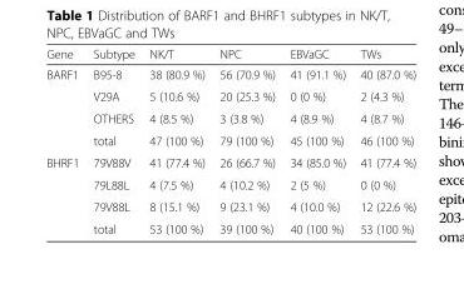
<table><thead><tr><td>Gene</td><td>Subtype</td><td>NK/T</td><td>NPC</td><td>EBVaGC</td><td>TWs</td></tr></thead><tbody><tr><td rowspan="4">BARF1</td><td>B95-8</td><td>38 (80.9 %)</td><td>56 (70.9 %)</td><td>41 (91.1 %)</td><td>40 (87.0 %)</td></tr><tr><td>V29A</td><td>5 (10.6 %)</td><td>20 (25.3 %)</td><td>0 (0 %)</td><td>2 (4.3 %)</td></tr><tr><td>OTHERS</td><td>4 (8.5 %)</td><td>3 (3.8 %)</td><td>4 (8.9 %)</td><td>4 (8.7 %)</td></tr><tr><td>total</td><td>47 (100 %)</td><td>79 (100 %)</td><td>45 (100 %)</td><td>46 (100 %)</td></tr><tr><td rowspan="4">BHRF1</td><td>79V88V</td><td>41 (77.4 %)</td><td>26 (66.7 %)</td><td>34 (85.0 %)</td><td>41 (77.4 %)</td></tr><tr><td>79L88L</td><td>4 (7.5 %)</td><td>4 (10.2 %)</td><td>2 (5 %)</td><td>0 (0 %)</td></tr><tr><td>79V88L</td><td>8 (15.1 %)</td><td>9 (23.1 %)</td><td>4 (10.0 %)</td><td>12 (22.6 %)</td></tr><tr><td>total</td><td>53 (100 %)</td><td>39 (100 %)</td><td>40 (100 %)</td><td>53 (100 %)</td></tr></tbody></table>